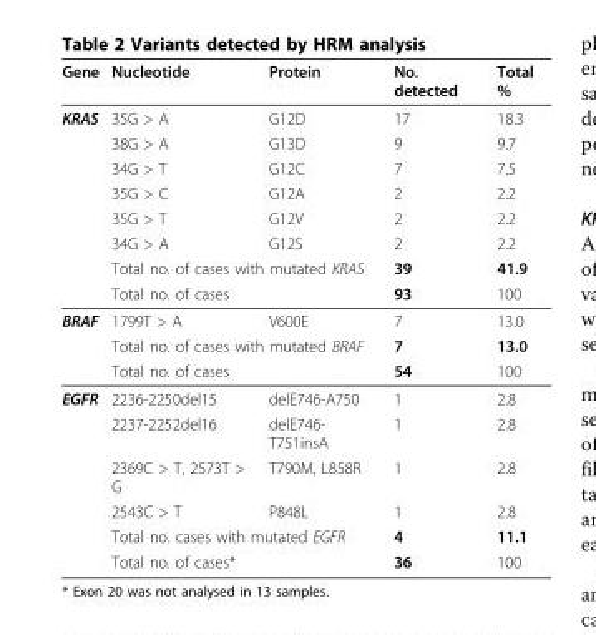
<table><thead><tr><td>Gene</td><td>Nucleotide</td><td>Protein</td><td>No. detected</td><td>Total %</td></tr></thead><tbody><tr><td rowspan="8">KRAS</td><td>35G &gt; A</td><td>G12D</td><td>17</td><td>18.3</td></tr><tr><td>38G &gt; A</td><td>G13D</td><td>9</td><td>9.7</td></tr><tr><td>34G &gt; T</td><td>G12C</td><td>7</td><td>7.5</td></tr><tr><td>35G &gt; C</td><td>G12A</td><td>2</td><td>2.2</td></tr><tr><td>35G &gt; T</td><td>G12V</td><td>2</td><td>2.2</td></tr><tr><td>34G &gt; A</td><td>G12S</td><td>2</td><td>2.2</td></tr><tr><td colspan="2">Total no. of cases with mutated KRAS</td><td>39</td><td>41.9</td></tr><tr><td colspan="2">Total no. of cases</td><td>93</td><td>100</td></tr><tr><td rowspan="3">BRAF</td><td>1799T &gt; A</td><td>V600E</td><td>7</td><td>13.0</td></tr><tr><td colspan="2">Total no. of cases with mutated BRAF</td><td>7</td><td>13.0</td></tr><tr><td colspan="2">Total no. of cases</td><td>54</td><td>100</td></tr><tr><td rowspan="6">EGFR</td><td>2236-2250del15</td><td>delE746-A750</td><td>1</td><td>2.8</td></tr><tr><td>2237-2252del16</td><td>delE746- T751insA</td><td>1</td><td>2.8</td></tr><tr><td>2369C &gt; T, 2573T &gt; G</td><td>T790M, L858R</td><td>1</td><td>2.8</td></tr><tr><td>2543C &gt; T</td><td>P848L</td><td>1</td><td>2.8</td></tr><tr><td colspan="2">Total no. cases with mutated EGFR</td><td>4</td><td>11.1</td></tr><tr><td colspan="2">Total no. of cases*</td><td>36</td><td>100</td></tr></tbody></table>